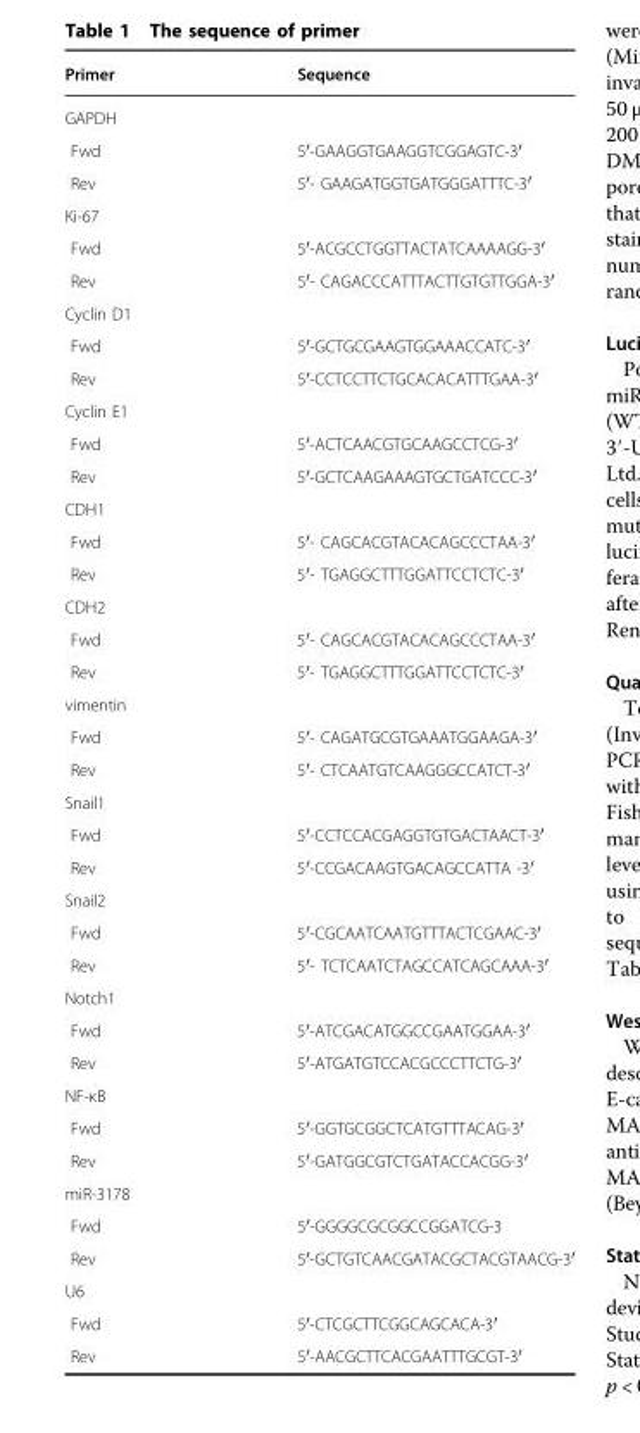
<table><thead><tr><td>Primer</td><td>Sequence</td></tr></thead><tbody><tr><td colspan="2">GAPDH</td></tr><tr><td>Fwd</td><td>5′-GAAGGTGAAGGTCGGAGTC-3′</td></tr><tr><td>Rev</td><td>5′- GAAGATGGTGATGGGATTTC-3′</td></tr><tr><td colspan="2">Ki-67</td></tr><tr><td>Fwd</td><td>5′-ACGCCTGGTTACTATCAAAAGG-3′</td></tr><tr><td>Rev</td><td>5′- CAGACCCATTTACTTGTGTTGGA-3′</td></tr><tr><td colspan="2">Cyclin D1</td></tr><tr><td>Fwd</td><td>5′-GCTGCGAAGTGGAAACCATC-3′</td></tr><tr><td>Rev</td><td>5′-CCTCCTTCTGCACACATTTGAA-3′</td></tr><tr><td colspan="2">Cyclin E1</td></tr><tr><td>Fwd</td><td>5′-ACTCAACGTGCAAGCCTCG-3′</td></tr><tr><td>Rev</td><td>5′-GCTCAAGAAAGTGCTGATCCC-3′</td></tr><tr><td colspan="2">CDH1</td></tr><tr><td>Fwd</td><td>5′- CAGCACGTACACAGCCCTAA-3′</td></tr><tr><td>Rev</td><td>5′- TGAGGCTTTGGATTCCTCTC-3′</td></tr><tr><td colspan="2">CDH2</td></tr><tr><td>Fwd</td><td>5′- CAGCACGTACACAGCCCTAA-3′</td></tr><tr><td>Rev</td><td>5′- TGAGGCTTTGGATTCCTCTC-3′</td></tr><tr><td colspan="2">vimentin</td></tr><tr><td>Fwd</td><td>5′- CAGATGCGTGAAATGGAAGA-3′</td></tr><tr><td>Rev</td><td>5′- CTCAATGTCAAGGGCCATCT-3′</td></tr><tr><td colspan="2">Snail1</td></tr><tr><td>Fwd</td><td>5′-CCTCCACGAGGTGTGACTAACT-3′</td></tr><tr><td>Rev</td><td>5′-CCGACAAGTGACAGCCATTA -3′</td></tr><tr><td colspan="2">Snail2</td></tr><tr><td>Fwd</td><td>5′-CGCAATCAATGTTTACTCGAAC-3′</td></tr><tr><td>Rev</td><td>5′- TCTCAATCTAGCCATCAGCAAA-3′</td></tr><tr><td colspan="2">Notch1</td></tr><tr><td>Fwd</td><td>5′-ATCGACATGGCCGAATGGAA-3′</td></tr><tr><td>Rev</td><td>5′-ATGATGTCCACGCCCTTCTG-3′</td></tr><tr><td colspan="2">NF-κB</td></tr><tr><td>Fwd</td><td>5′-GGTGCGGCTCATGTTTACAG-3′</td></tr><tr><td>Rev</td><td>5′-GATGGCGTCTGATACCACGG-3′</td></tr><tr><td colspan="2">miR-3178</td></tr><tr><td>Fwd</td><td>5′-GGGGCGCGGCCGGATCG-3</td></tr><tr><td>Rev</td><td>5′-GCTGTCAACGATACGCTACGTAACG-3′</td></tr><tr><td colspan="2">U6</td></tr><tr><td>Fwd</td><td>5′-CTCGCTTCGGCAGCACA-3′</td></tr><tr><td>Rev</td><td>5′-AACGCTTCACGAATTTGCGT-3′</td></tr></tbody></table>